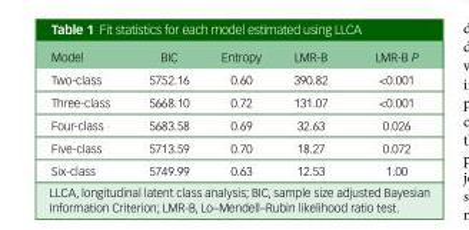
<table><thead><tr><td>Model</td><td>BIC</td><td>Entropy</td><td>LMR-B</td><td>LMR-B P</td></tr></thead><tbody><tr><td>Two-class</td><td>5752.16</td><td>0.60</td><td>390.82</td><td>&lt;0.001</td></tr><tr><td>Three-class</td><td>5668.10</td><td>0.72</td><td>131.07</td><td>&lt;0.001</td></tr><tr><td>Four-class</td><td>5683.58</td><td>0.69</td><td>32.63</td><td>0.026</td></tr><tr><td>Five-class</td><td>5713.59</td><td>0.70</td><td>18.27</td><td>0.072</td></tr><tr><td>Six-class</td><td>5749.99</td><td>0.63</td><td>12.53</td><td>1.00</td></tr></tbody></table>